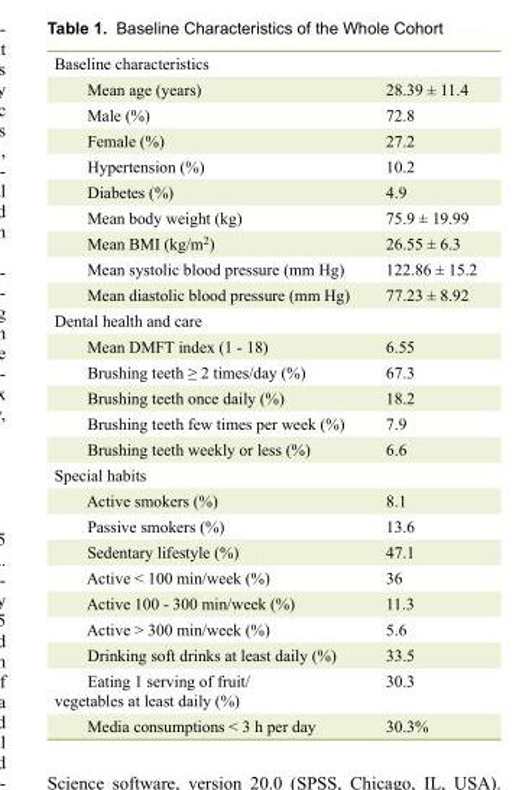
<table><tbody><tr><td colspan="2">Baseline characteristics</td></tr><tr><td>Mean age (years)</td><td>28.39 ± 11.4</td></tr><tr><td>Male (%)</td><td>72.8</td></tr><tr><td>Female (%)</td><td>27.2</td></tr><tr><td>Hypertension (%)</td><td>10.2</td></tr><tr><td>Diabetes (%)</td><td>4.9</td></tr><tr><td>Mean body weight (kg)</td><td>75.9 ± 19.99</td></tr><tr><td>Mean BMI (kg/m<sup>2</sup>)</td><td>26.55 ± 6.3</td></tr><tr><td>Mean systolic blood pressure (mm Hg)</td><td>122.86 ± 15.2</td></tr><tr><td>Mean diastolic blood pressure (mm Hg)</td><td>77.23 ± 8.92</td></tr><tr><td colspan="2">Dental health and care</td></tr><tr><td>Mean DMFT index (1 - 18)</td><td>6.55</td></tr><tr><td>Brushing teeth ≥ 2 times/day (%)</td><td>67.3</td></tr><tr><td>Brushing teeth once daily (%)</td><td>18.2</td></tr><tr><td>Brushing teeth few times per week (%)</td><td>7.9</td></tr><tr><td>Brushing teeth weekly or less (%)</td><td>6.6</td></tr><tr><td colspan="2">Special habits</td></tr><tr><td>Active smokers (%)</td><td>8.1</td></tr><tr><td>Passive smokers (%)</td><td>13.6</td></tr><tr><td>Sedentary lifestyle (%)</td><td>47.1</td></tr><tr><td>Active &lt; 100 min/week (%)</td><td>36</td></tr><tr><td>Active 100 - 300 min/week (%)</td><td>11.3</td></tr><tr><td>Active &gt; 300 min/week (%)</td><td>5.6</td></tr><tr><td>Drinking soft drinks at least daily (%)</td><td>33.5</td></tr><tr><td>Eating 1 serving of fruit/ vegetables at least daily (%)</td><td>30.3</td></tr><tr><td>Media consumptions &lt; 3 h per day</td><td>30.3%</td></tr></tbody></table>